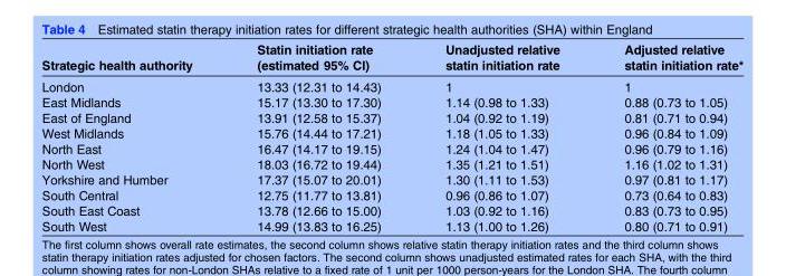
<table><thead><tr><td>Strategic health authority</td><td>Statin initiation rate (estimated 95% CI)</td><td>Unadjusted relative statin initiation rate</td><td>Adjusted relative statin initiation rate*</td></tr></thead><tbody><tr><td>London</td><td>13.33 (12.31 to 14.43)</td><td>1</td><td>1</td></tr><tr><td>East Midlands</td><td>15.17 (13.30 to 17.30)</td><td>1.14 (0.98 to 1.33)</td><td>0.88 (0.73 to 1.05)</td></tr><tr><td>East of England</td><td>13.91 (12.58 to 15.37)</td><td>1.04 (0.92 to 1.19)</td><td>0.81 (0.71 to 0.94)</td></tr><tr><td>West Midlands</td><td>15.76 (14.44 to 17.21)</td><td>1.18 (1.05 to 1.33)</td><td>0.96 (0.84 to 1.09)</td></tr><tr><td>North East</td><td>16.47 (14.17 to 19.15)</td><td>1.24 (1.04 to 1.47)</td><td>0.96 (0.79 to 1.16)</td></tr><tr><td>North West</td><td>18.03 (16.72 to 19.44)</td><td>1.35 (1.21 to 1.51)</td><td>1.16 (1.02 to 1.31)</td></tr><tr><td>Yorkshire and Humber</td><td>17.37 (15.07 to 20.01)</td><td>1.30 (1.11 to 1.53)</td><td>0.97 (0.81 to 1.17)</td></tr><tr><td>South Central</td><td>12.75 (11.77 to 13.81)</td><td>0.96 (0.86 to 1.07)</td><td>0.73 (0.64 to 0.83)</td></tr><tr><td>South East Coast</td><td>13.78 (12.66 to 15.00)</td><td>1.03 (0.92 to 1.16)</td><td>0.83 (0.73 to 0.95)</td></tr><tr><td>South West</td><td>14.99 (13.83 to 16.25)</td><td>1.13 (1.00 to 1.26)</td><td>0.80 (0.71 to 0.91)</td></tr></tbody></table>